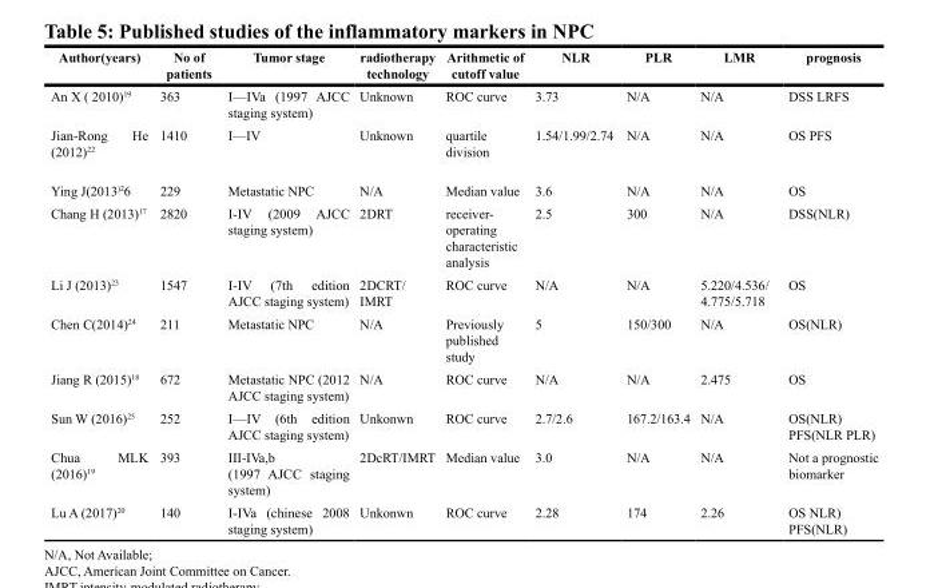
<table><thead><tr><td>Author(years)</td><td>No of patients</td><td>Tumor stage</td><td>radiotherapy technology</td><td>Arithmetic of cutoff value</td><td>NLR</td><td>PLR</td><td>LMR</td><td>prognosis</td></tr></thead><tbody><tr><td>An X ( 2010)<sup>19</sup></td><td>363</td><td>I—IVa (1997 AJCC staging system)</td><td>Unknown</td><td>ROC curve</td><td>3.73</td><td>N/A</td><td>N/A</td><td>DSS LRFS</td></tr><tr><td>Jian-Rong He (2012)<sup>22</sup></td><td>1410</td><td>I—IV</td><td>Unknown</td><td>quartile division</td><td>1.54/1.99/2.74</td><td>N/A</td><td>N/A</td><td>OS PFS</td></tr><tr><td>Ying J(2013<sup>)2</sup>6</td><td>229</td><td>Metastatic NPC</td><td>N/A</td><td>Median value</td><td>3.6</td><td>N/A</td><td>N/A</td><td>OS</td></tr><tr><td>Chang H (2013)<sup>17</sup></td><td>2820</td><td>I-IV (2009 AJCC staging system)</td><td>2DRT</td><td>receiver- operating characteristic analysis</td><td>2.5</td><td>300</td><td>N/A</td><td>DSS(NLR)</td></tr><tr><td>Li J (2013)<sup>23</sup></td><td>1547</td><td>I-IV (7th edition AJCC staging system)</td><td>2DCRT/ IMRT</td><td>ROC curve</td><td>N/A</td><td>N/A</td><td>5.220/4.536/ 4.775/5.718</td><td>OS</td></tr><tr><td>Chen C(2014)<sup>24</sup></td><td>211</td><td>Metastatic NPC</td><td>N/A</td><td>Previously published study</td><td>5</td><td>150/300</td><td>N/A</td><td>OS(NLR)</td></tr><tr><td>Jiang R (2015)<sup>18</sup></td><td>672</td><td>Metastatic NPC (2012 AJCC staging system)</td><td>N/A</td><td>ROC curve</td><td>N/A</td><td>N/A</td><td>2.475</td><td>OS</td></tr><tr><td>Sun W (2016)<sup>25</sup></td><td>252</td><td>I—IV (6th edition AJCC staging system)</td><td>Unkonwn</td><td>ROC curve</td><td>2.7/2.6</td><td>167.2/163.4</td><td>N/A</td><td>OS(NLR) PFS(NLR PLR)</td></tr><tr><td>Chua MLK (2016)<sup>19</sup></td><td>393</td><td>III-IVa,b (1997 AJCC staging system)</td><td>2DcRT/IMRT</td><td>Median value</td><td>3.0</td><td>N/A</td><td>N/A</td><td>Not a prognostic biomarker</td></tr><tr><td>Lu A (2017)<sup>20</sup></td><td>140</td><td>I-IVa (chinese 2008 staging system)</td><td>Unkonwn</td><td>ROC curve</td><td>2.28</td><td>174</td><td>2.26</td><td>OS NLR) PFS(NLR)</td></tr></tbody></table>